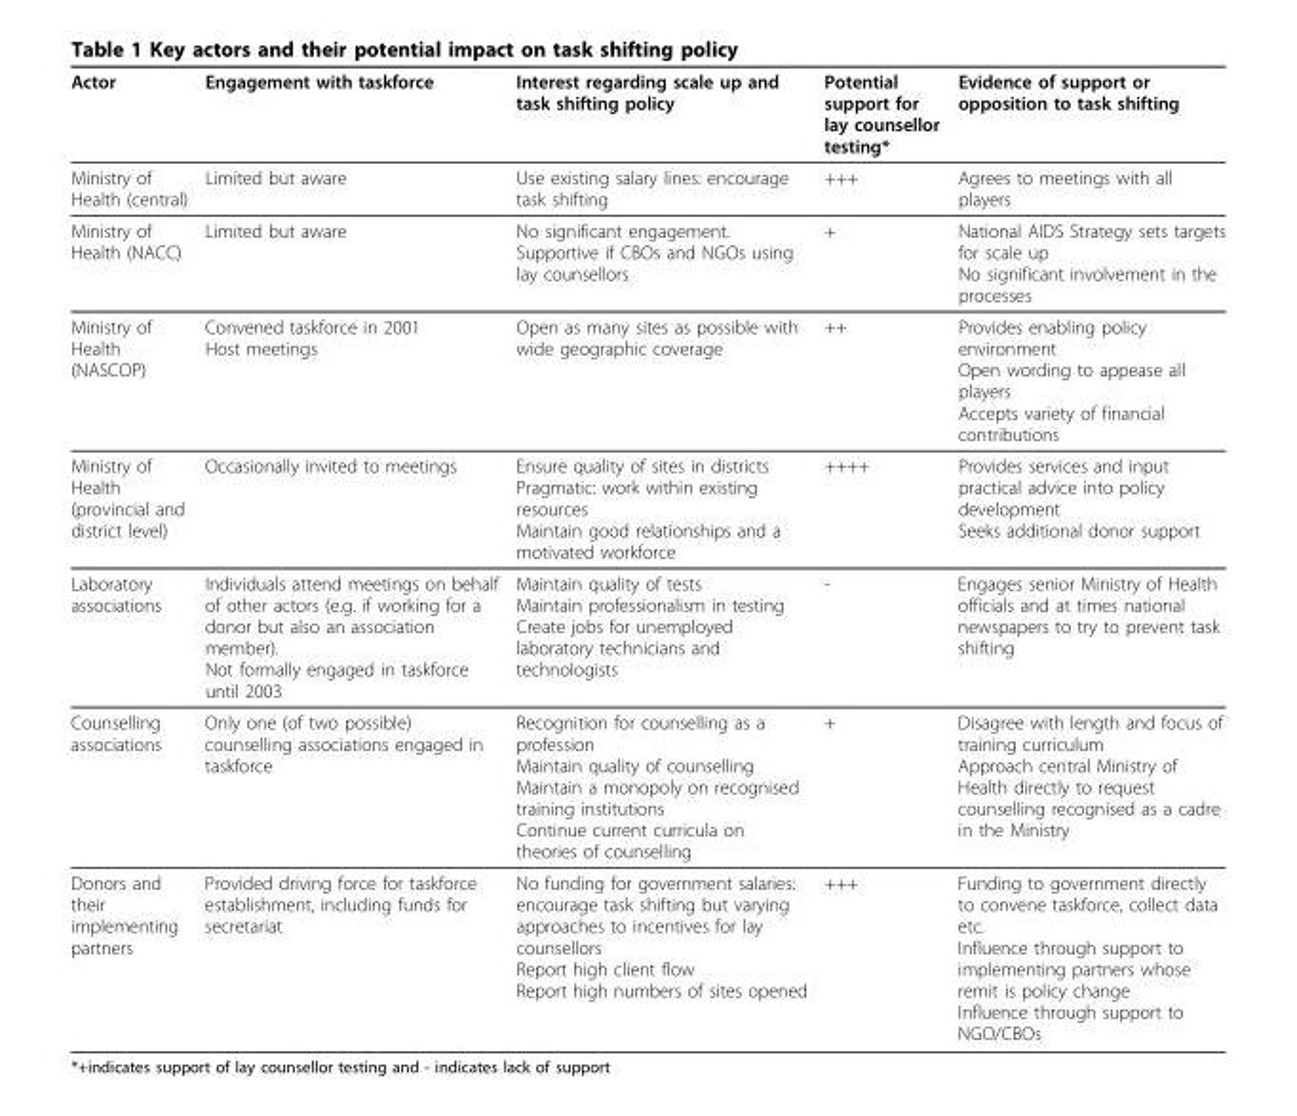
<table><thead><tr><td>Actor</td><td>Engagement with taskforce</td><td>Interest regarding scale up and task shifting policy</td><td>Potential support for lay counsellor testing*</td><td>Evidence of support or opposition to task shifting</td></tr></thead><tbody><tr><td>Ministry of Health (central)</td><td>Limited but aware</td><td>Use existing salary lines: encourage task shifting</td><td>+++</td><td>Agrees to meetings with all players</td></tr><tr><td>Ministry of Health (NACC)</td><td>Limited but aware</td><td>No significant engagement. Supportive if CBOs and NGOs using lay counsellors</td><td>+</td><td>National AIDS Strategy sets targets for scale up No significant involvement in the processes</td></tr><tr><td>Ministry of Health (NASCOP)</td><td>Convened taskforce in 2001 Host meetings</td><td>Open as many sites as possible with wide geographic coverage</td><td>++</td><td>Provides enabling policy environment Open wording to appease all players Accepts variety of financial contributions</td></tr><tr><td>Ministry of Health (provincial and district level)</td><td>Occasionally invited to meetings</td><td>Ensure quality of sites in districts Pragmatic: work within existing resources Maintain good relationships and a motivated workforce</td><td>++++</td><td>Provides services and input practical advice into policy development Seeks additional donor support</td></tr><tr><td>Laboratory associations</td><td>Individuals attend meetings on behalf of other actors (e.g. if working for a donor but also an association member). Not formally engaged in taskforce until 2003</td><td>Maintain quality of tests Maintain professionalism in testing Create jobs for unemployed laboratory technicians and technologists</td><td>-</td><td>Engages senior Ministry of Health officials and at times national newspapers to try to prevent task shifting</td></tr><tr><td>Counselling associations</td><td>Only one (of two possible) counselling associations engaged in taskforce</td><td>Recognition for counselling as a profession Maintain quality of counselling Maintain a monopoly on recognised training institutions Continue current curricula on theories of counselling</td><td>+</td><td>Disagree with length and focus of training curriculum Approach central Ministry of Health directly to request counselling recognised as a cadre in the Ministry</td></tr><tr><td>Donors and their implementing partners</td><td>Provided driving force for taskforce establishment, including funds for secretariat</td><td>No funding for government salaries: encourage task shifting but varying approaches to incentives for lay counsellors Report high client flow Report high numbers of sites opened</td><td>+++</td><td>Funding to government directly to convene taskforce, collect data etc. Influence through support to implementing partners whose remit is policy change Influence through support to NGO/CBOs</td></tr></tbody></table>